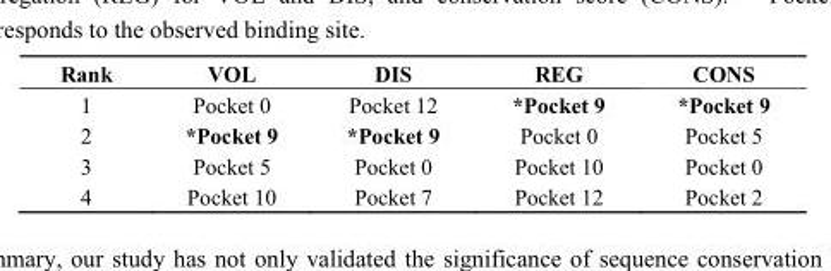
<table><thead><tr><td>Rank</td><td>VOL</td><td>DIS</td><td>REG</td><td>CONS</td></tr></thead><tbody><tr><td>1</td><td>Pocket 0</td><td>Pocket 12</td><td>*Pocket 9</td><td>*Pocket 9</td></tr><tr><td>2</td><td>*Pocket 9</td><td>*Pocket 9</td><td>Pocket 0</td><td>Pocket 5</td></tr><tr><td>3</td><td>Pocket 5</td><td>Pocket 0</td><td>Pocket 10</td><td>Pocket 0</td></tr><tr><td>4</td><td>Pocket 10</td><td>Pocket 7</td><td>Pocket 12</td><td>Pocket 2</td></tr></tbody></table>